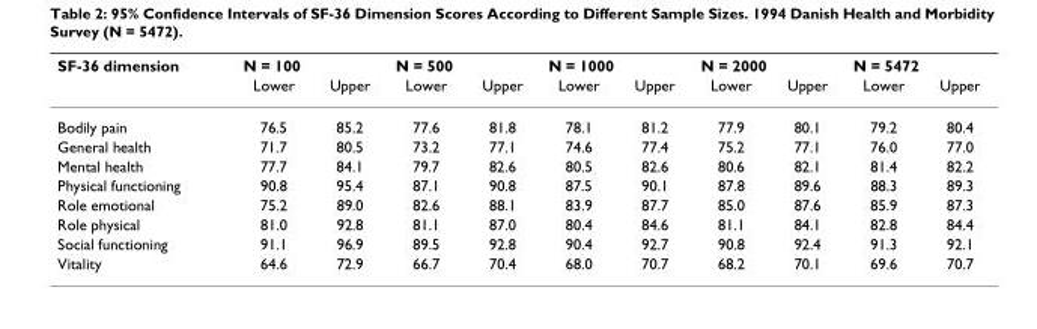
<table><thead><tr><td rowspan="2">SF-36 dimension</td><td colspan="2">N = 100</td><td colspan="2">N = 500</td><td colspan="2">N = 1000</td><td colspan="2">N = 2000</td><td colspan="2">N = 5472</td></tr><tr><td>Lower</td><td>Upper</td><td>Lower</td><td>Upper</td><td>Lower</td><td>Upper</td><td>Lower</td><td>Upper</td><td>Lower</td><td>Upper</td></tr></thead><tbody><tr><td>Bodily pain</td><td>76.5</td><td>85.2</td><td>77.6</td><td>81.8</td><td>78.1</td><td>81.2</td><td>77.9</td><td>80.1</td><td>79.2</td><td>80.4</td></tr><tr><td>General health</td><td>71.7</td><td>80.5</td><td>73.2</td><td>77.1</td><td>74.6</td><td>77.4</td><td>75.2</td><td>77.1</td><td>76.0</td><td>77.0</td></tr><tr><td>Mental health</td><td>77.7</td><td>84.1</td><td>79.7</td><td>82.6</td><td>80.5</td><td>82.6</td><td>80.6</td><td>82.1</td><td>81.4</td><td>82.2</td></tr><tr><td>Physical functioning</td><td>90.8</td><td>95.4</td><td>87.1</td><td>90.8</td><td>87.5</td><td>90.1</td><td>87.8</td><td>89.6</td><td>88.3</td><td>89.3</td></tr><tr><td>Role emotional</td><td>75.2</td><td>89.0</td><td>82.6</td><td>88.1</td><td>83.9</td><td>87.7</td><td>85.0</td><td>87.6</td><td>85.9</td><td>87.3</td></tr><tr><td>Role physical</td><td>81.0</td><td>92.8</td><td>81.1</td><td>87.0</td><td>80.4</td><td>84.6</td><td>81.1</td><td>84.1</td><td>82.8</td><td>84.4</td></tr><tr><td>Social functioning</td><td>91.1</td><td>96.9</td><td>89.5</td><td>92.8</td><td>90.4</td><td>92.7</td><td>90.8</td><td>92.4</td><td>91.3</td><td>92.1</td></tr><tr><td>Vitality</td><td>64.6</td><td>72.9</td><td>66.7</td><td>70.4</td><td>68.0</td><td>70.7</td><td>68.2</td><td>70.1</td><td>69.6</td><td>70.7</td></tr></tbody></table>